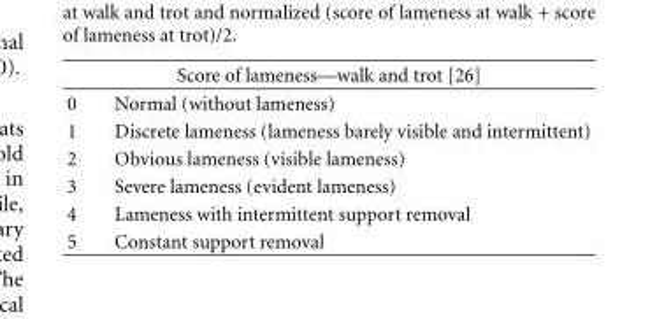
<table><thead><tr><td colspan="2">Score of lameness—walk and trot [26]</td></tr><tr><td>0</td><td>Normal (without lameness)</td></tr></thead><tbody><tr><td>1</td><td>Discrete lameness (lameness barely visible and intermittent)</td></tr><tr><td>2</td><td>Obvious lameness (visible lameness)</td></tr><tr><td>3</td><td>Severe lameness (evident lameness)</td></tr><tr><td>4</td><td>Lameness with intermittent support removal</td></tr><tr><td>5</td><td>Constant support removal</td></tr></tbody></table>